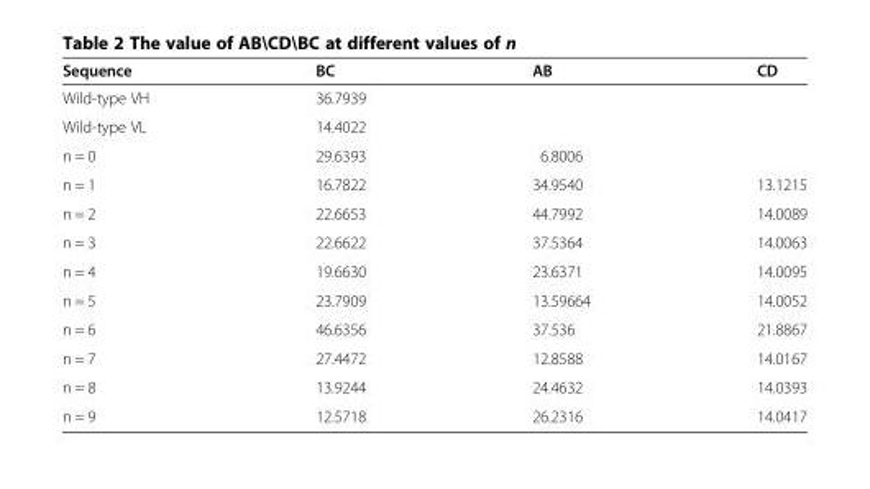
<table><thead><tr><td>Sequence</td><td>BC</td><td>AB</td><td>CD</td></tr></thead><tbody><tr><td>Wild-type VH</td><td>36.7939</td><td></td><td></td></tr><tr><td>Wild-type VL</td><td>14.4022</td><td></td><td></td></tr><tr><td>n = 0</td><td>29.6393</td><td>6.8006</td><td></td></tr><tr><td>n = 1</td><td>16.7822</td><td>34.9540</td><td>13.1215</td></tr><tr><td>n = 2</td><td>22.6653</td><td>44.7992</td><td>14.0089</td></tr><tr><td>n = 3</td><td>22.6622</td><td>37.5364</td><td>14.0063</td></tr><tr><td>n = 4</td><td>19.6630</td><td>23.6371</td><td>14.0095</td></tr><tr><td>n = 5</td><td>23.7909</td><td>13.59664</td><td>14.0052</td></tr><tr><td>n = 6</td><td>46.6356</td><td>37.536</td><td>21.8867</td></tr><tr><td>n = 7</td><td>27.4472</td><td>12.8588</td><td>14.0167</td></tr><tr><td>n = 8</td><td>13.9244</td><td>24.4632</td><td>14.0393</td></tr><tr><td>n = 9</td><td>12.5718</td><td>26.2316</td><td>14.0417</td></tr></tbody></table>